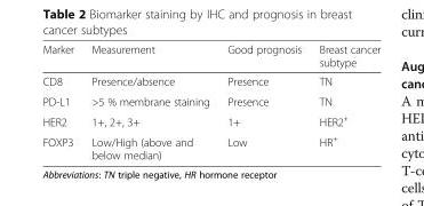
<table><thead><tr><td>Marker</td><td>Measurement</td><td>Good prognosis</td><td>Breast cancer subtype</td></tr></thead><tbody><tr><td>CD8</td><td>Presence/absence</td><td>Presence</td><td>TN</td></tr><tr><td>PD-L1</td><td>&gt;5 % membrane staining</td><td>Presence</td><td>TN</td></tr><tr><td>HER2</td><td>1+, 2+, 3+</td><td>1+</td><td>HER2<sup>+</sup></td></tr><tr><td>FOXP3</td><td>Low/High (above and below median)</td><td>Low</td><td>HR<sup>+</sup></td></tr></tbody></table>